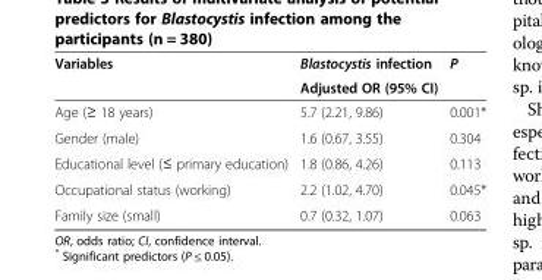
<table><thead><tr><td rowspan="2">Variables</td><td rowspan="2">Blastocystis infection Adjusted OR (95% CI)</td><td rowspan="2">P</td></tr><tr></tr></thead><tbody><tr><td>Age (≥ 18 years)</td><td>5.7 (2.21, 9.86)</td><td>0.001*</td></tr><tr><td>Gender (male)</td><td>1.6 (0.67, 3.55)</td><td>0.304</td></tr><tr><td>Educational level (≤ primary education)</td><td>1.8 (0.86, 4.26)</td><td>0.113</td></tr><tr><td>Occupational status (working)</td><td>2.2 (1.02, 4.70)</td><td>0.045*</td></tr><tr><td>Family size (small)</td><td>0.7 (0.32, 1.07)</td><td>0.063</td></tr></tbody></table>